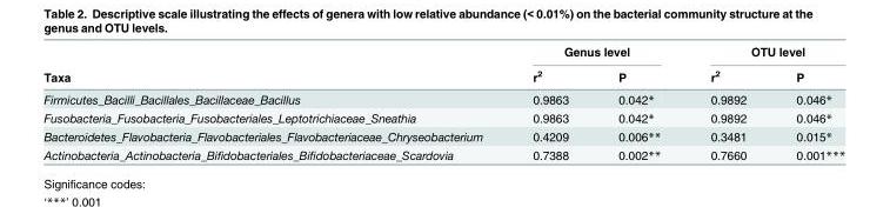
<table><thead><tr><td rowspan="2">Taxa</td><td colspan="2">Genus level</td><td colspan="2">OTU level</td></tr><tr><td>r<sup>2</sup></td><td>P</td><td>r<sup>2</sup></td><td>P</td></tr></thead><tbody><tr><td>Firmicutes_Bacilli_Bacillales_Bacillaceae_Bacillus</td><td>0.9863</td><td>0.042*</td><td>0.9892</td><td>0.046*</td></tr><tr><td>Fusobacteria_Fusobacteria_Fusobacteriales_Leptotrichiaceae_Sneathia</td><td>0.9863</td><td>0.042*</td><td>0.9892</td><td>0.046*</td></tr><tr><td>Bacteroidetes_Flavobacteria_Flavobacteriales_Flavobacteriaceae_Chryseobacterium</td><td>0.4209</td><td>0.006**</td><td>0.3481</td><td>0.015*</td></tr><tr><td>Actinobacteria_Actinobacteria_Bifidobacteriales_Bifidobacteriaceae_Scardovia</td><td>0.7388</td><td>0.002**</td><td>0.7660</td><td>0.001***</td></tr></tbody></table>